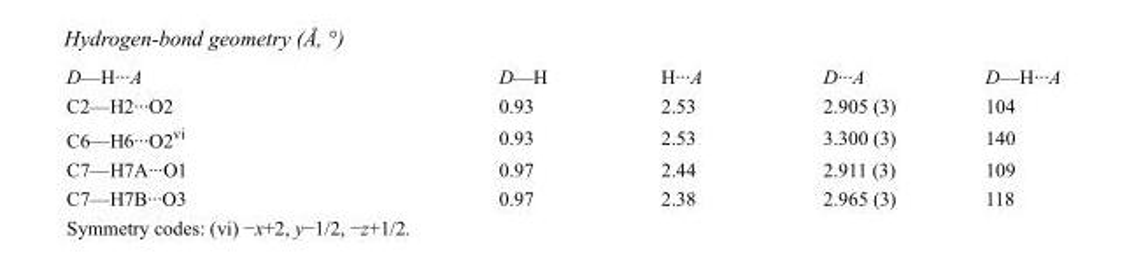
<table><tbody><tr><td>D—H···A</td><td>D—H</td><td>H···A</td><td>D···A</td><td>D—H···A</td></tr><tr><td>C2—H2···O2</td><td>0.93</td><td>2.53</td><td>2.905 (3)</td><td>104</td></tr><tr><td>C6—H6···O2<sup>vi</sup></td><td>0.93</td><td>2.53</td><td>3.300 (3)</td><td>140</td></tr><tr><td>C7—H7A···O1</td><td>0.97</td><td>2.44</td><td>2.911 (3)</td><td>109</td></tr><tr><td>C7—H7B···O3</td><td>0.97</td><td>2.38</td><td>2.965 (3)</td><td>118</td></tr></tbody></table>